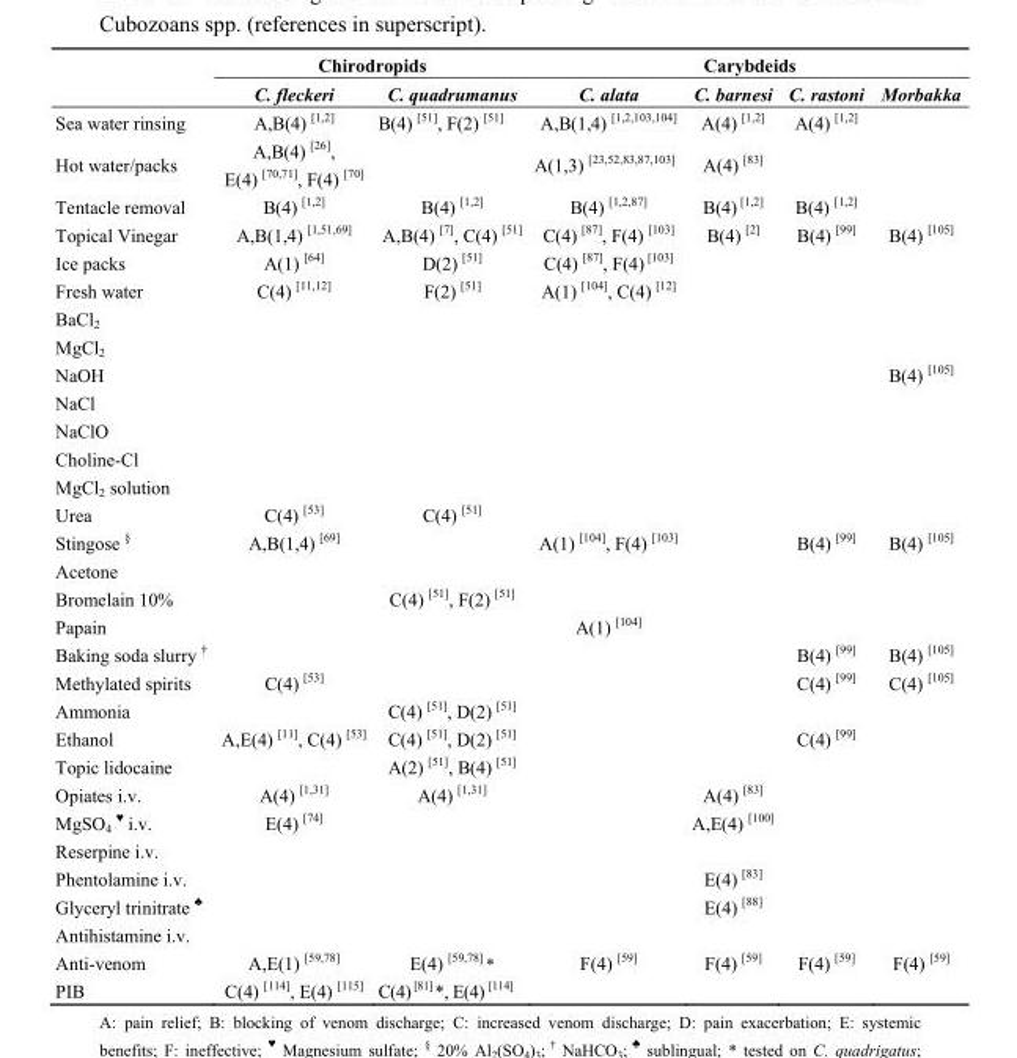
<table><thead><tr><td rowspan="2"></td><td colspan="2">Chirodropids</td><td colspan="4">Carybdeids</td></tr><tr><td>C. fleckeri</td><td>C. quadrumanus</td><td>C. alata</td><td>C. barnesi</td><td>C. rastoni</td><td>Morbakka</td></tr></thead><tbody><tr><td>Sea water rinsing</td><td>A,B(4) <sup>[1,2]</sup></td><td>B(4) <sup>[51]</sup>, F(2) <sup>[51]</sup></td><td>A,B(1,4) <sup>[1,2,103,104]</sup></td><td>A(4) <sup>[1,2]</sup></td><td>A(4) <sup>[1,2]</sup></td><td></td></tr><tr><td>Hot water/packs</td><td>A,B(4) <sup>[26]</sup>, E(4) <sup>[70,71]</sup>, F(4) <sup>[70]</sup></td><td></td><td>A(1,3) <sup>[23,52,83,87,103]</sup></td><td>A(4) <sup>[83]</sup></td><td></td><td></td></tr><tr><td>Tentacle removal</td><td>B(4) <sup>[1,2]</sup></td><td>B(4) <sup>[1,2]</sup></td><td>B(4) <sup>[1,2,87]</sup></td><td>B(4) <sup>[1,2]</sup></td><td>B(4) <sup>[1,2]</sup></td><td></td></tr><tr><td>Topical Vinegar</td><td>A,B(1,4) <sup>[1,51,69]</sup></td><td>A,B(4) <sup>[7]</sup>, C(4) <sup>[51]</sup></td><td>C(4) <sup>[87]</sup>, F(4) <sup>[103]</sup></td><td>B(4) <sup>[2]</sup></td><td>B(4) <sup>[99</sup>]</td><td>B(4) <sup>[105]</sup></td></tr><tr><td>Ice packs</td><td>A(1) <sup>[64]</sup></td><td>D(2) <sup>[51]</sup></td><td>C(4) <sup>[87]</sup>, F(4) <sup>[103]</sup></td><td></td><td></td><td></td></tr><tr><td>Fresh water</td><td>C(4) <sup>[11,12]</sup></td><td>F(2) <sup>[51]</sup></td><td>A(1) <sup>[104]</sup>, C(4) <sup>[12]</sup></td><td></td><td></td><td></td></tr><tr><td colspan="7">BaCl<sub>2</sub></td></tr><tr><td colspan="7">MgCl<sub>2</sub></td></tr><tr><td>NaOH</td><td></td><td></td><td></td><td></td><td></td><td>B(4) <sup>[105]</sup></td></tr><tr><td colspan="7">NaCl</td></tr><tr><td colspan="7">NaClO</td></tr><tr><td colspan="7">Choline-Cl</td></tr><tr><td colspan="7">MgCl<sub>2</sub> solution</td></tr><tr><td>Urea</td><td>C(4) <sup>[53]</sup></td><td>C(4) <sup>[51]</sup></td><td></td><td></td><td></td><td></td></tr><tr><td>Stingose <sup>§</sup></td><td>A,B(1,4) <sup>[69]</sup></td><td></td><td>A(1) <sup>[104]</sup>, F(4) <sup>[103]</sup></td><td></td><td>B(4) <sup>[99]</sup></td><td>B(4) <sup>[105]</sup></td></tr><tr><td colspan="7">Acetone</td></tr><tr><td>Bromelain 10%</td><td></td><td>C(4) <sup>[51]</sup>, F(2) <sup>[51]</sup></td><td></td><td></td><td></td><td></td></tr><tr><td>Papain</td><td></td><td></td><td>A(1) <sup>[104]</sup></td><td></td><td></td><td></td></tr><tr><td>Baking soda slurry <sup>†</sup></td><td></td><td></td><td></td><td></td><td>B(4) <sup>[99]</sup></td><td>B(4) <sup>[105]</sup></td></tr><tr><td>Methylated spirits</td><td>C(4) <sup>[53]</sup></td><td></td><td></td><td></td><td>C(4) <sup>[99]</sup></td><td>C(4) <sup>[105]</sup></td></tr><tr><td>Ammonia</td><td></td><td>C(4) <sup>[51]</sup>, D(2) <sup>[51]</sup></td><td></td><td></td><td></td><td></td></tr><tr><td>Ethanol</td><td>A,E(4) <sup>[11]</sup>, C(4) <sup>[53]</sup></td><td>C(4) <sup>[51]</sup>, D(2) <sup>[51]</sup></td><td></td><td></td><td>C(4) <sup>[99]</sup></td><td></td></tr><tr><td>Topic lidocaine</td><td></td><td>A(2) <sup>[51]</sup>, B(4) <sup>[51]</sup></td><td></td><td></td><td></td><td></td></tr><tr><td>Opiates i.v.</td><td>A(4) <sup>[1,31]</sup></td><td>A(4) <sup>[1,31]</sup></td><td></td><td>A(4) <sup>[83]</sup></td><td></td><td></td></tr><tr><td>MgSO<sub>4</sub> <sup>♥</sup> i.v.</td><td>E(4) <sup>[74]</sup></td><td></td><td></td><td>A,E(4) <sup>[100]</sup></td><td></td><td></td></tr><tr><td colspan="7">Reserpine i.v.</td></tr><tr><td>Phentolamine i.v.</td><td></td><td></td><td></td><td>E(4) <sup>[83]</sup></td><td></td><td></td></tr><tr><td>Glyceryl trinitrate <sup>♣</sup></td><td></td><td></td><td></td><td>E(4) <sup>[88]</sup></td><td></td><td></td></tr><tr><td colspan="7">Antihistamine i.v.</td></tr><tr><td>Anti-venom</td><td>A,E(1) <sup>[59,78]</sup></td><td>E(4) <sup>[59,78]</sup> *</td><td>F(4) <sup>[59]</sup></td><td>F(4) <sup>[59]</sup></td><td>F(4) <sup>[59]</sup></td><td>F(4) <sup>[59]</sup></td></tr><tr><td>PIB</td><td>C(4) <sup>[114]</sup>, E(4) <sup>[115]</sup></td><td>C(4) <sup>[81]</sup> *, E(4) <sup>[114]</sup></td><td></td><td></td><td></td><td></td></tr></tbody></table>